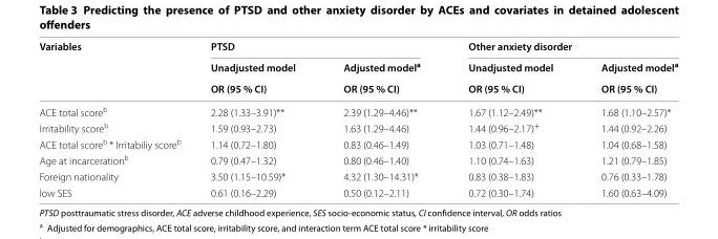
<table><thead><tr><td rowspan="3">Variables</td><td colspan="2">PTSD</td><td colspan="2">Other anxiety disorder</td></tr><tr><td rowspan="2">Unadjusted model OR (95 % CI)</td><td rowspan="2">Adjusted model<sup>a</sup> OR (95 % CI)</td><td rowspan="2">Unadjusted model OR (95 % CI)</td><td rowspan="2">Adjusted model<sup>a</sup> OR (95 % CI)</td></tr><tr></tr></thead><tbody><tr><td>ACE total score<sup>b</sup></td><td>2.28 (1.33–3.91)**</td><td>2.39 (1.29–4.46)**</td><td>1.67 (1.12–2.49)**</td><td>1.68 (1.10–2.57)*</td></tr><tr><td>Irritability score<sup>b</sup></td><td>1.59 (0.93–2.73)</td><td>1.63 (1.29–4.46)</td><td>1.44 (0.96–2.17)<sup>+</sup></td><td>1.44 (0.92–2.26)</td></tr><tr><td>ACE total score<sup>b</sup> * Irritabiliy score<sup>b</sup></td><td>1.14 (0.72–1.80)</td><td>0.83 (0.46–1.49)</td><td>1.03 (0.71–1.48)</td><td>1.04 (0.68–1.58)</td></tr><tr><td>Age at incarceration<sup>b</sup></td><td>0.79 (0.47–1.32)</td><td>0.80 (0.46–1.40)</td><td>1.10 (0.74–1.63)</td><td>1.21 (0.79–1.85)</td></tr><tr><td>Foreign nationality</td><td>3.50 (1.15–10.59)*</td><td>4.32 (1.30–14.31)*</td><td>0.83 (0.38–1.83)</td><td>0.76 (0.33–1.78)</td></tr><tr><td>low SES</td><td>0.61 (0.16–2.29)</td><td>0.50 (0.12–2.11)</td><td>0.72 (0.30–1.74)</td><td>1.60 (0.63–4.09)</td></tr></tbody></table>